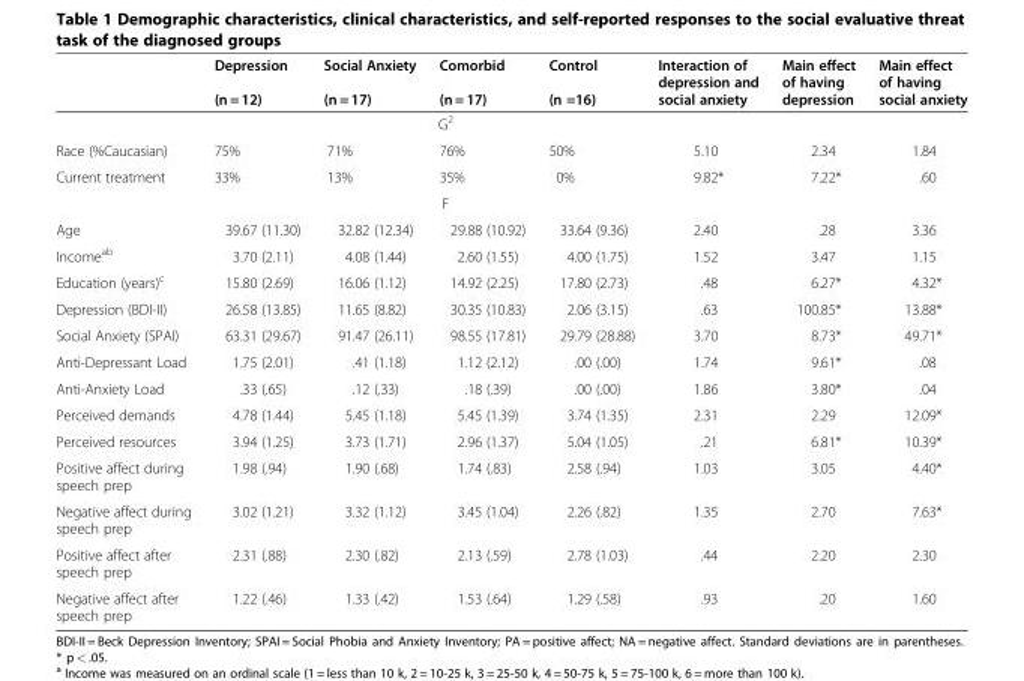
<table><thead><tr><td></td><td>Depression (n = 12)</td><td>Social Anxiety (n = 17)</td><td>Comorbid (n = 17)</td><td>Control (n =16)</td><td>Interaction of depression and social anxiety</td><td>Main effect of having depression</td><td>Main effect of having social anxiety</td></tr></thead><tbody><tr><td colspan="8">G<sup>2</sup></td></tr><tr><td>Race (%Caucasian)</td><td>75%</td><td>71%</td><td>76%</td><td>50%</td><td>5.10</td><td>2.34</td><td>1.84</td></tr><tr><td>Current treatment</td><td>33%</td><td>13%</td><td>35%</td><td>0%</td><td>9.82*</td><td>7.22*</td><td>.60</td></tr><tr><td colspan="8">F</td></tr><tr><td>Age</td><td>39.67 (11.30)</td><td>32.82 (12.34)</td><td>29.88 (10.92)</td><td>33.64 (9.36)</td><td>2.40</td><td>.28</td><td>3.36</td></tr><tr><td>Income<sup>ab</sup></td><td>3.70 (2.11)</td><td>4.08 (1.44)</td><td>2.60 (1.55)</td><td>4.00 (1.75)</td><td>1.52</td><td>3.47</td><td>1.15</td></tr><tr><td>Education (years)<sup>c</sup></td><td>15.80 (2.69)</td><td>16.06 (1.12)</td><td>14.92 (2.25)</td><td>17.80 (2.73)</td><td>.48</td><td>6.27*</td><td>4.32*</td></tr><tr><td>Depression (BDI-II)</td><td>26.58 (13.85)</td><td>11.65 (8.82)</td><td>30.35 (10.83)</td><td>2.06 (3.15)</td><td>.63</td><td>100.85*</td><td>13.88*</td></tr><tr><td>Social Anxiety (SPAI)</td><td>63.31 (29.67)</td><td>91.47 (26.11)</td><td>98.55 (17.81)</td><td>29.79 (28.88)</td><td>3.70</td><td>8.73*</td><td>49.71*</td></tr><tr><td>Anti-Depressant Load</td><td>1.75 (2.01)</td><td>.41 (1.18)</td><td>1.12 (2.12)</td><td>.00 (.00)</td><td>1.74</td><td>9.61*</td><td>.08</td></tr><tr><td>Anti-Anxiety Load</td><td>.33 (.65)</td><td>.12 (.33)</td><td>.18 (.39)</td><td>.00 (.00)</td><td>1.86</td><td>3.80*</td><td>.04</td></tr><tr><td>Perceived demands</td><td>4.78 (1.44)</td><td>5.45 (1.18)</td><td>5.45 (1.39)</td><td>3.74 (1.35)</td><td>2.31</td><td>2.29</td><td>12.09*</td></tr><tr><td>Perceived resources</td><td>3.94 (1.25)</td><td>3.73 (1.71)</td><td>2.96 (1.37)</td><td>5.04 (1.05)</td><td>.21</td><td>6.81*</td><td>10.39*</td></tr><tr><td>Positive affect during speech prep</td><td>1.98 (.94)</td><td>1.90 (.68)</td><td>1.74 (.83)</td><td>2.58 (.94)</td><td>1.03</td><td>3.05</td><td>4.40*</td></tr><tr><td>Negative affect during speech prep</td><td>3.02 (1.21)</td><td>3.32 (1.12)</td><td>3.45 (1.04)</td><td>2.26 (.82)</td><td>1.35</td><td>2.70</td><td>7.63*</td></tr><tr><td>Positive affect after speech prep</td><td>2.31 (.88)</td><td>2.30 (.82)</td><td>2.13 (.59)</td><td>2.78 (1.03)</td><td>.44</td><td>2.20</td><td>2.30</td></tr><tr><td>Negative affect after speech prep</td><td>1.22 (.46)</td><td>1.33 (.42)</td><td>1.53 (.64)</td><td>1.29 (.58)</td><td>.93</td><td>.20</td><td>1.60</td></tr></tbody></table>